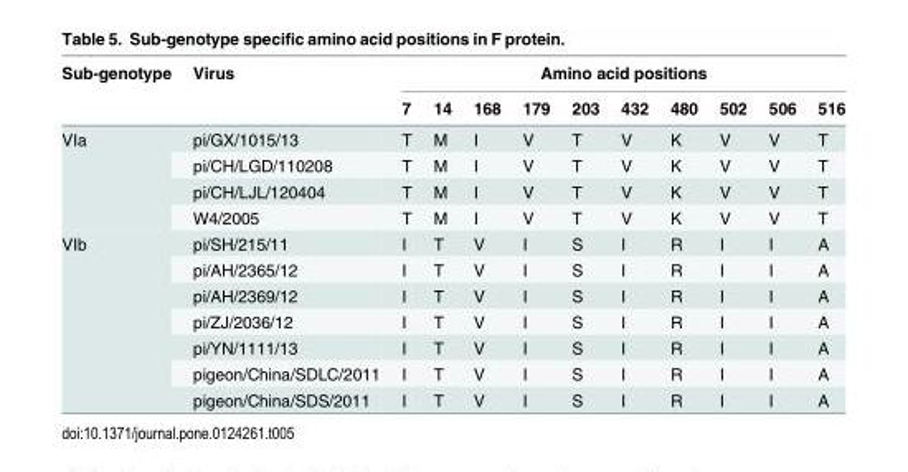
<table><thead><tr><td rowspan="2">Sub-genotype</td><td rowspan="2">Virus</td><td colspan="10">Amino acid positions</td></tr><tr><td>7</td><td>14</td><td>168</td><td>179</td><td>203</td><td>432</td><td>480</td><td>502</td><td>506</td><td>516</td></tr></thead><tbody><tr><td rowspan="4">VIa</td><td>pi/GX/1015/13</td><td>T</td><td>M</td><td>I</td><td>V</td><td>T</td><td>V</td><td>K</td><td>V</td><td>V</td><td>T</td></tr><tr><td>pi/CH/LGD/110208</td><td>T</td><td>M</td><td>I</td><td>V</td><td>T</td><td>V</td><td>K</td><td>V</td><td>V</td><td>T</td></tr><tr><td>pi/CH/LJL/120404</td><td>T</td><td>M</td><td>I</td><td>V</td><td>T</td><td>V</td><td>K</td><td>V</td><td>V</td><td>T</td></tr><tr><td>W4/2005</td><td>T</td><td>M</td><td>I</td><td>V</td><td>T</td><td>V</td><td>K</td><td>V</td><td>V</td><td>T</td></tr><tr><td rowspan="7">VIb</td><td>pi/SH/215/11</td><td>I</td><td>T</td><td>V</td><td>I</td><td>S</td><td>I</td><td>R</td><td>I</td><td>I</td><td>A</td></tr><tr><td>pi/AH/2365/12</td><td>I</td><td>T</td><td>V</td><td>I</td><td>S</td><td>I</td><td>R</td><td>I</td><td>I</td><td>A</td></tr><tr><td>pi/AH/2369/12</td><td>I</td><td>T</td><td>V</td><td>I</td><td>S</td><td>I</td><td>R</td><td>I</td><td>I</td><td>A</td></tr><tr><td>pi/ZJ/2036/12</td><td>I</td><td>T</td><td>V</td><td>I</td><td>S</td><td>I</td><td>R</td><td>I</td><td>I</td><td>A</td></tr><tr><td>pi/YN/1111/13</td><td>I</td><td>T</td><td>V</td><td>I</td><td>S</td><td>I</td><td>R</td><td>I</td><td>I</td><td>A</td></tr><tr><td>pigeon/China/SDLC/2011</td><td>I</td><td>T</td><td>V</td><td>I</td><td>S</td><td>I</td><td>R</td><td>I</td><td>I</td><td>A</td></tr><tr><td>pigeon/China/SDS/2011</td><td>I</td><td>T</td><td>V</td><td>I</td><td>S</td><td>I</td><td>R</td><td>I</td><td>I</td><td>A</td></tr></tbody></table>